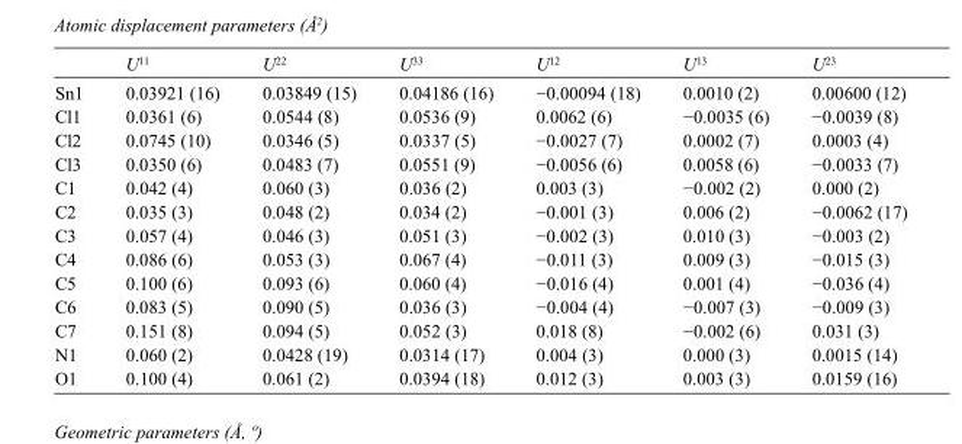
<table><thead><tr><td></td><td>U<sup>11</sup></td><td>U<sup>22</sup></td><td>U<sup>33</sup></td><td>U<sup>12</sup></td><td>U<sup>13</sup></td><td>U<sup>23</sup></td></tr></thead><tbody><tr><td>Sn1</td><td>0.03921 (16)</td><td>0.03849 (15)</td><td>0.04186 (16)</td><td>−0.00094 (18)</td><td>0.0010 (2)</td><td>0.00600 (12)</td></tr><tr><td>Cl1</td><td>0.0361 (6)</td><td>0.0544 (8)</td><td>0.0536 (9)</td><td>0.0062 (6)</td><td>−0.0035 (6)</td><td>−0.0039 (8)</td></tr><tr><td>Cl2</td><td>0.0745 (10)</td><td>0.0346 (5)</td><td>0.0337 (5)</td><td>−0.0027 (7)</td><td>0.0002 (7)</td><td>0.0003 (4)</td></tr><tr><td>Cl3</td><td>0.0350 (6)</td><td>0.0483 (7)</td><td>0.0551 (9)</td><td>−0.0056 (6)</td><td>0.0058 (6)</td><td>−0.0033 (7)</td></tr><tr><td>C1</td><td>0.042 (4)</td><td>0.060 (3)</td><td>0.036 (2)</td><td>0.003 (3)</td><td>−0.002 (2)</td><td>0.000 (2)</td></tr><tr><td>C2</td><td>0.035 (3)</td><td>0.048 (2)</td><td>0.034 (2)</td><td>−0.001 (3)</td><td>0.006 (2)</td><td>−0.0062 (17)</td></tr><tr><td>C3</td><td>0.057 (4)</td><td>0.046 (3)</td><td>0.051 (3)</td><td>−0.002 (3)</td><td>0.010 (3)</td><td>−0.003 (2)</td></tr><tr><td>C4</td><td>0.086 (6)</td><td>0.053 (3)</td><td>0.067 (4)</td><td>−0.011 (3)</td><td>0.009 (3)</td><td>−0.015 (3)</td></tr><tr><td>C5</td><td>0.100 (6)</td><td>0.093 (6)</td><td>0.060 (4)</td><td>−0.016 (4)</td><td>0.001 (4)</td><td>−0.036 (4)</td></tr><tr><td>C6</td><td>0.083 (5)</td><td>0.090 (5)</td><td>0.036 (3)</td><td>−0.004 (4)</td><td>−0.007 (3)</td><td>−0.009 (3)</td></tr><tr><td>C7</td><td>0.151 (8)</td><td>0.094 (5)</td><td>0.052 (3)</td><td>0.018 (8)</td><td>−0.002 (6)</td><td>0.031 (3)</td></tr><tr><td>N1</td><td>0.060 (2)</td><td>0.0428 (19)</td><td>0.0314 (17)</td><td>0.004 (3)</td><td>0.000 (3)</td><td>0.0015 (14)</td></tr><tr><td>O1</td><td>0.100 (4)</td><td>0.061 (2)</td><td>0.0394 (18)</td><td>0.012 (3)</td><td>0.003 (3)</td><td>0.0159 (16)</td></tr></tbody></table>